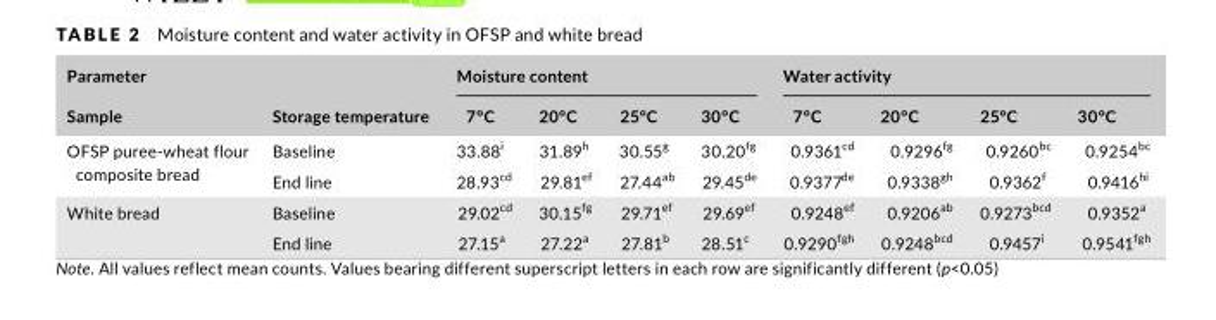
<table><thead><tr><td rowspan="2">Parameter Sample</td><td rowspan="2">Storage temperature</td><td colspan="4">Moisture content</td><td colspan="4">Water activity</td></tr><tr><td>7°C</td><td>20°C</td><td>25°C</td><td>30°C</td><td>7°C</td><td>20°C</td><td>25°C</td><td>30°C</td></tr></thead><tbody><tr><td rowspan="2">OFSP puree- wheat flour composite bread</td><td>Baseline</td><td>33.88<sup>i</sup></td><td>31.89<sup>h</sup></td><td>30.55<sup>g</sup></td><td>30.20<sup>fg</sup></td><td>0.9361<sup>cd</sup></td><td>0.9296<sup>fg</sup></td><td>0.9260<sup>bc</sup></td><td>0.9254<sup>bc</sup></td></tr><tr><td>End line</td><td>28.93<sup>cd</sup></td><td>29.81<sup>ef</sup></td><td>27.44<sup>ab</sup></td><td>29.45<sup>de</sup></td><td>0.9377<sup>de</sup></td><td>0.9338<sup>gh</sup></td><td>0.9362<sup>f</sup></td><td>0.9416<sup>hi</sup></td></tr><tr><td rowspan="2">White bread</td><td>Baseline</td><td>29.02<sup>cd</sup></td><td>30.15<sup>fg</sup></td><td>29.71<sup>ef</sup></td><td>29.69<sup>ef</sup></td><td>0.9248<sup>ef</sup></td><td>0.9206<sup>ab</sup></td><td>0.9273<sup>bcd</sup></td><td>0.9352<sup>a</sup></td></tr><tr><td>End line</td><td>27.15<sup>a</sup></td><td>27.22<sup>a</sup></td><td>27.81<sup>b</sup></td><td>28.51<sup>c</sup></td><td>0.9290<sup>fgh</sup></td><td>0.9248<sup>bcd</sup></td><td>0.9457<sup>i</sup></td><td>0.9541<sup>fgh</sup></td></tr></tbody></table>